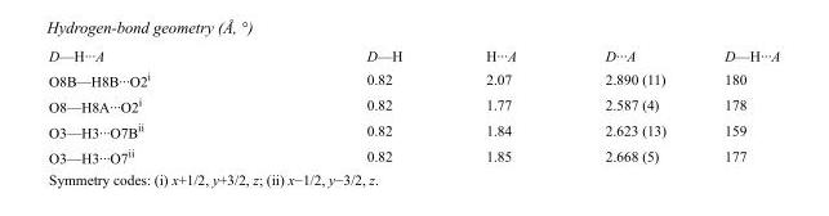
<table><tbody><tr><td>D—H···A</td><td>D—H</td><td>H···A</td><td>D···A</td><td>D—H···A</td></tr><tr><td>O8B—H8B···O2<sup>i</sup></td><td>0.82</td><td>2.07</td><td>2.890 (11)</td><td>180</td></tr><tr><td>O8—H8A···O2<sup>i</sup></td><td>0.82</td><td>1.77</td><td>2.587 (4)</td><td>178</td></tr><tr><td>O3—H3···O7B<sup>ii</sup></td><td>0.82</td><td>1.84</td><td>2.623 (13)</td><td>159</td></tr><tr><td>O3—H3···O7<sup>ii</sup></td><td>0.82</td><td>1.85</td><td>2.668 (5)</td><td>177</td></tr></tbody></table>